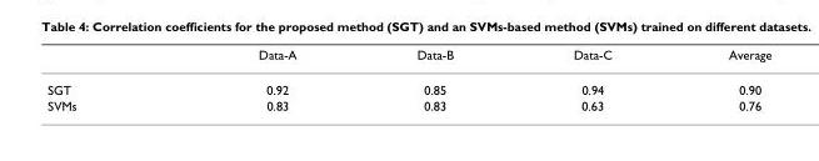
<table><thead><tr><td></td><td>Data-A</td><td>Data-B</td><td>Data-C</td><td>Average</td></tr></thead><tbody><tr><td>SGT</td><td>0.92</td><td>0.85</td><td>0.94</td><td>0.90</td></tr><tr><td>SVMs</td><td>0.83</td><td>0.83</td><td>0.63</td><td>0.76</td></tr></tbody></table>